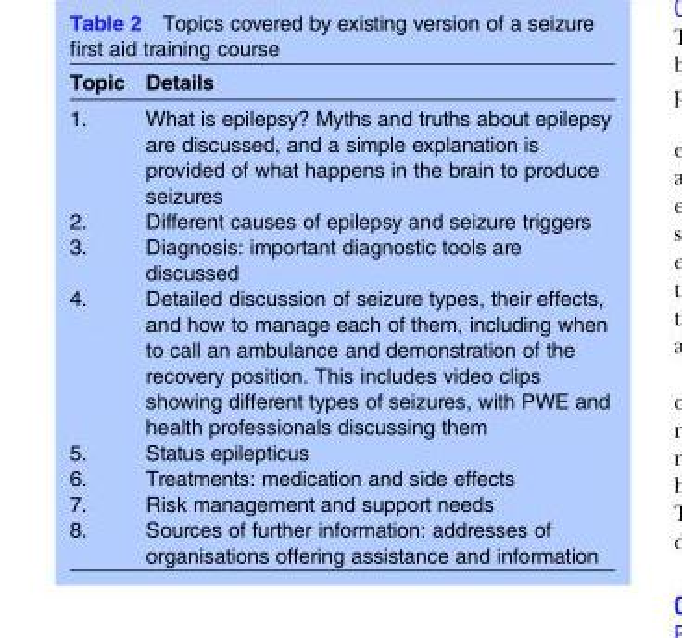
<table><thead><tr><td>Topic</td><td>Details</td></tr></thead><tbody><tr><td>1.</td><td>What is epilepsy? Myths and truths about epilepsy are discussed, and a simple explanation is provided of what happens in the brain to produce seizures</td></tr><tr><td>2.</td><td>Different causes of epilepsy and seizure triggers</td></tr><tr><td>3.</td><td>Diagnosis: important diagnostic tools are discussed</td></tr><tr><td>4.</td><td>Detailed discussion of seizure types, their effects, and how to manage each of them, including when to call an ambulance and demonstration of the recovery position. This includes video clips showing different types of seizures, with PWE and health professionals discussing them</td></tr><tr><td>5.</td><td>Status epilepticus</td></tr><tr><td>6.</td><td>Treatments: medication and side effects</td></tr><tr><td>7.</td><td>Risk management and support needs</td></tr><tr><td>8.</td><td>Sources of further information: addresses of organisations offering assistance and information</td></tr></tbody></table>